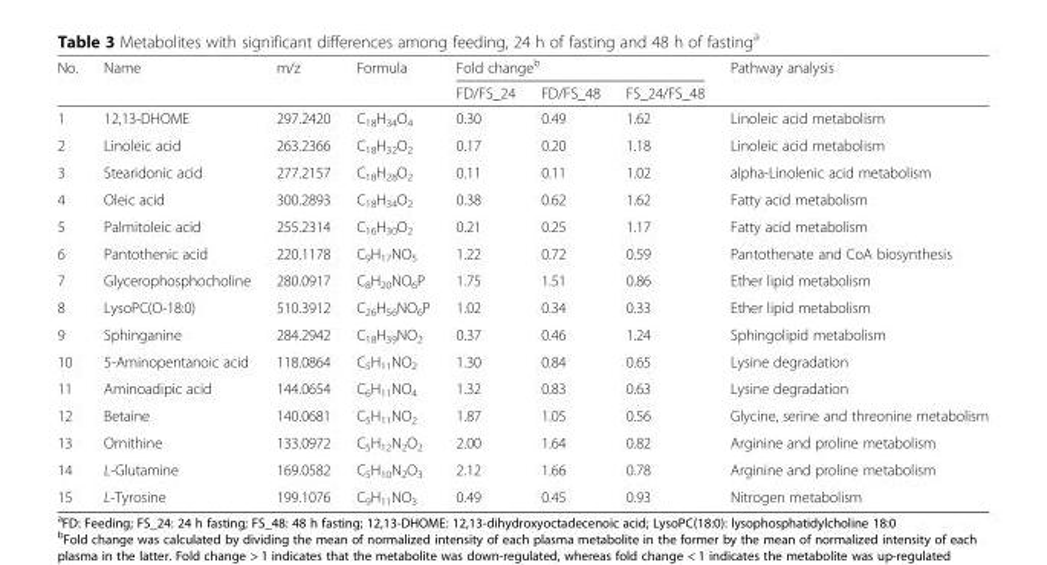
<table><thead><tr><td rowspan="2">No.</td><td rowspan="2">Name</td><td rowspan="2">m/z</td><td rowspan="2">Formula</td><td colspan="3">Fold change<sup>b</sup></td><td rowspan="2">Pathway analysis</td></tr><tr><td>FD/FS_24</td><td>FD/FS_48</td><td>FS_24/FS_48</td></tr></thead><tbody><tr><td>1</td><td>12,13-DHOME</td><td>297.2420</td><td>C<sub>18</sub>H<sub>34</sub>O<sub>4</sub></td><td>0.30</td><td>0.49</td><td>1.62</td><td>Linoleic acid metabolism</td></tr><tr><td>2</td><td>Linoleic acid</td><td>263.2366</td><td>C<sub>18</sub>H<sub>32</sub>O<sub>2</sub></td><td>0.17</td><td>0.20</td><td>1.18</td><td>Linoleic acid metabolism</td></tr><tr><td>3</td><td>Stearidonic acid</td><td>277.2157</td><td>C<sub>18</sub>H<sub>28</sub>O<sub>2</sub></td><td>0.11</td><td>0.11</td><td>1.02</td><td>alpha-Linolenic acid metabolism</td></tr><tr><td>4</td><td>Oleic acid</td><td>300.2893</td><td>C<sub>18</sub>H<sub>34</sub>O<sub>2</sub></td><td>0.38</td><td>0.62</td><td>1.62</td><td>Fatty acid metabolism</td></tr><tr><td>5</td><td>Palmitoleic acid</td><td>255.2314</td><td>C<sub>16</sub>H<sub>30</sub>O<sub>2</sub></td><td>0.21</td><td>0.25</td><td>1.17</td><td>Fatty acid metabolism</td></tr><tr><td>6</td><td>Pantothenic acid</td><td>220.1178</td><td>C<sub>9</sub>H<sub>17</sub>NO<sub>5</sub></td><td>1.22</td><td>0.72</td><td>0.59</td><td>Pantothenate and CoA biosynthesis</td></tr><tr><td>7</td><td>Glycerophosphocholine</td><td>280.0917</td><td>C<sub>8</sub>H<sub>20</sub>NO<sub>6</sub>P</td><td>1.75</td><td>1.51</td><td>0.86</td><td>Ether lipid metabolism</td></tr><tr><td>8</td><td>LysoPC(O-18:0)</td><td>510.3912</td><td>C<sub>26</sub>H<sub>56</sub>NO<sub>6</sub>P</td><td>1.02</td><td>0.34</td><td>0.33</td><td>Ether lipid metabolism</td></tr><tr><td>9</td><td>Sphinganine</td><td>284.2942</td><td>C<sub>18</sub>H<sub>39</sub>NO<sub>2</sub></td><td>0.37</td><td>0.46</td><td>1.24</td><td>Sphingolipid metabolism</td></tr><tr><td>10</td><td>5-Aminopentanoic acid</td><td>118.0864</td><td>C<sub>5</sub>H<sub>11</sub>NO<sub>2</sub></td><td>1.30</td><td>0.84</td><td>0.65</td><td>Lysine degradation</td></tr><tr><td>11</td><td>Aminoadipic acid</td><td>144.0654</td><td>C<sub>6</sub>H<sub>11</sub>NO<sub>4</sub></td><td>1.32</td><td>0.83</td><td>0.63</td><td>Lysine degradation</td></tr><tr><td>12</td><td>Betaine</td><td>140.0681</td><td>C<sub>5</sub>H<sub>11</sub>NO<sub>2</sub></td><td>1.87</td><td>1.05</td><td>0.56</td><td>Glycine, serine and threonine metabolism</td></tr><tr><td>13</td><td>Ornithine</td><td>133.0972</td><td>C<sub>5</sub>H<sub>12</sub>N<sub>2</sub>O<sub>2</sub></td><td>2.00</td><td>1.64</td><td>0.82</td><td>Arginine and proline metabolism</td></tr><tr><td>14</td><td>L-Glutamine</td><td>169.0582</td><td>C<sub>5</sub>H<sub>10</sub>N<sub>2</sub>O<sub>3</sub></td><td>2.12</td><td>1.66</td><td>0.78</td><td>Arginine and proline metabolism</td></tr><tr><td>15</td><td>L-Tyrosine</td><td>199.1076</td><td>C<sub>9</sub>H<sub>11</sub>NO<sub>3</sub></td><td>0.49</td><td>0.45</td><td>0.93</td><td>Nitrogen metabolism</td></tr></tbody></table>